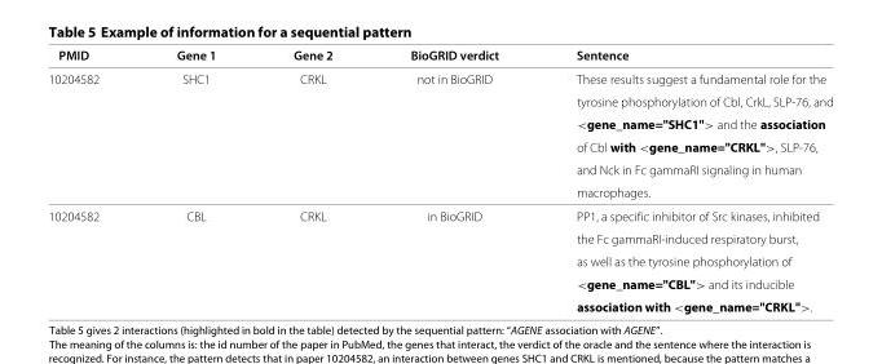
<table><thead><tr><td>PMID</td><td>Gene 1</td><td>Gene 2</td><td>BioGRID verdict</td><td>Sentence</td></tr></thead><tbody><tr><td rowspan="6">10204582</td><td>SHC1</td><td>CRKL</td><td>not in BioGRID</td><td>These results suggest a fundamental role for the</td></tr><tr><td></td><td></td><td></td><td>tyrosine phosphorylation of Cbl, CrkL, SLP-76, and</td></tr><tr><td></td><td></td><td></td><td>&lt;gene_name=&quot;SHC1&quot;&gt; and the association</td></tr><tr><td></td><td></td><td></td><td>of Cbl with &lt;gene_name=&quot;CRKL&quot;&gt;, SLP-76,</td></tr><tr><td></td><td></td><td></td><td>and Nck in Fc gammaRI signaling in human</td></tr><tr><td></td><td></td><td></td><td>macrophages.</td></tr><tr><td rowspan="5">10204582</td><td>CBL</td><td>CRKL</td><td>in BioGRID</td><td>PP1, a specific inhibitor of Src kinases, inhibited</td></tr><tr><td></td><td></td><td></td><td>the Fc gammaRI-induced respiratory burst,</td></tr><tr><td></td><td></td><td></td><td>as well as the tyrosine phosphorylation of</td></tr><tr><td></td><td></td><td></td><td>&lt;gene_name=&quot;CBL&quot;&gt; and its inducible</td></tr><tr><td></td><td></td><td></td><td>association with &lt;gene_name=&quot;CRKL&quot;&gt;.</td></tr></tbody></table>